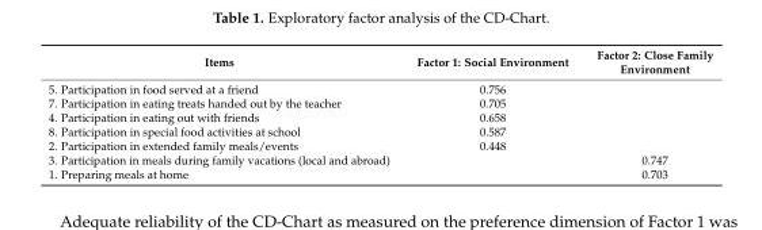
<table><thead><tr><td>Items</td><td>Factor 1: Social Environment</td><td>Factor 2: Close Family Environment</td></tr></thead><tbody><tr><td>5. Participation in food served at a friend</td><td>0.756</td><td></td></tr><tr><td>7. Participation in eating treats handed out by the teacher</td><td>0.705</td><td></td></tr><tr><td>4. Participation in eating out with friends</td><td>0.658</td><td></td></tr><tr><td>8. Participation in special food activities at school</td><td>0.587</td><td></td></tr><tr><td>2. Participation in extended family meals/events</td><td>0.448</td><td></td></tr><tr><td>3. Participation in meals during family vacations (local and abroad)</td><td></td><td>0.747</td></tr><tr><td>1. Preparing meals at home</td><td></td><td>0.703</td></tr></tbody></table>